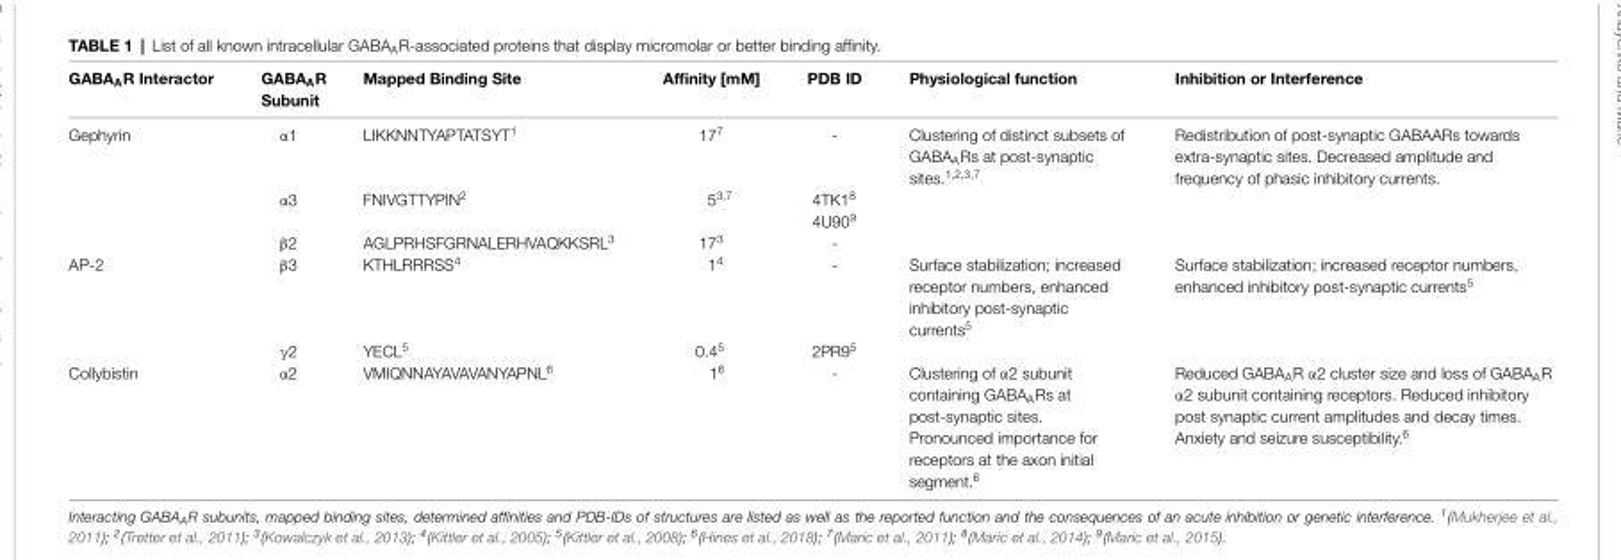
<table><thead><tr><td>GABA<sub>A</sub>R Interactor</td><td>GABA<sub>A</sub>R Subunit</td><td>Mapped Binding Site</td><td>Affinity [μM]</td><td>PDB ID</td><td>Physiological function</td><td>Inhibition or Interference</td></tr></thead><tbody><tr><td rowspan="4">Gephyrin</td><td>α1</td><td>LIKKNNTYAPTATSYT<sup>1</sup></td><td>17<sup>7</sup></td><td>-</td><td>Clustering of distinct subsets of GABA<sub>A</sub>Rs at post-synaptic sites.<sup>1,2,3,7</sup></td><td>Redistribution of post-synaptic GABAARs towards extra-synaptic sites. Decreased amplitude and frequency of phasic inhibitory currents.</td></tr><tr><td>α3</td><td>FNIVGTTYPIN<sup>2</sup></td><td>5<sup>3,7</sup></td><td>4TK1<sup>8</sup></td><td></td><td></td></tr><tr><td></td><td></td><td></td><td>4U90<sup>9</sup></td><td></td><td></td></tr><tr><td>β2</td><td>AGLPRHSFGRNALERHVAQKKSRL<sup>3</sup></td><td>17<sup>3</sup></td><td>-</td><td></td><td></td></tr><tr><td rowspan="2">AP-2</td><td>β3</td><td>KTHLRRRSS<sup>4</sup></td><td>1<sup>4</sup></td><td>-</td><td>Surface stabilization; increased receptor numbers, enhanced inhibitory post-synaptic currents<sup>5</sup></td><td>Surface stabilization; increased receptor numbers, enhanced inhibitory post-synaptic currents<sup>5</sup></td></tr><tr><td>γ2</td><td>YECL<sup>5</sup></td><td>0.4<sup>5</sup></td><td>2PR9<sup>5</sup></td><td></td><td></td></tr><tr><td>Collybistin</td><td>α2</td><td>VMIQNNAYAVAVANYAPNL<sup>6</sup></td><td>1<sup>6</sup></td><td>-</td><td>Clustering of α2 subunit containing GABA<sub>A</sub>Rs at post-synaptic sites. Pronounced importance for receptors at the axon initial segment.<sup>6</sup></td><td>Reduced GABA<sub>A</sub>R α2 cluster size and loss of GABA<sub>A</sub>R α2 subunit containing receptors. Reduced inhibitory post synaptic current amplitudes and decay times. Anxiety and seizure susceptibility.<sup>6</sup></td></tr></tbody></table>